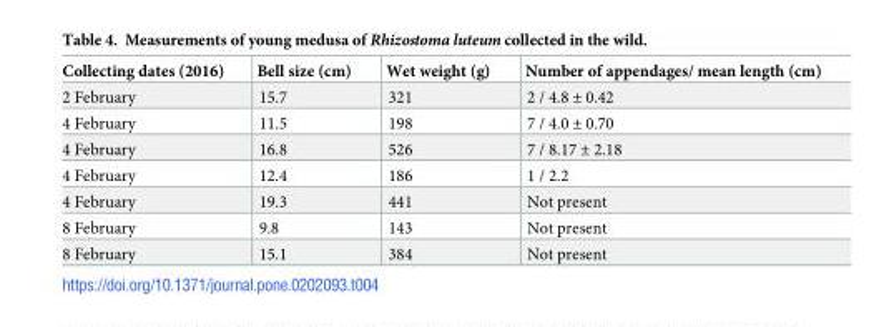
<table><thead><tr><td>Collecting dates (2016)</td><td>Bell size (cm)</td><td>Wet weight (g)</td><td>Number of appendages/ mean length (cm)</td></tr></thead><tbody><tr><td>2 February</td><td>15.7</td><td>321</td><td>2 / 4.8 ± 0.42</td></tr><tr><td>4 February</td><td>11.5</td><td>198</td><td>7 / 4.0 ± 0.70</td></tr><tr><td>4 February</td><td>16.8</td><td>526</td><td>7 / 8.17 ± 2.18</td></tr><tr><td>4 February</td><td>12.4</td><td>186</td><td>1 / 2.2</td></tr><tr><td>4 February</td><td>19.3</td><td>441</td><td>Not present</td></tr><tr><td>8 February</td><td>9.8</td><td>143</td><td>Not present</td></tr><tr><td>8 February</td><td>15.1</td><td>384</td><td>Not present</td></tr></tbody></table>